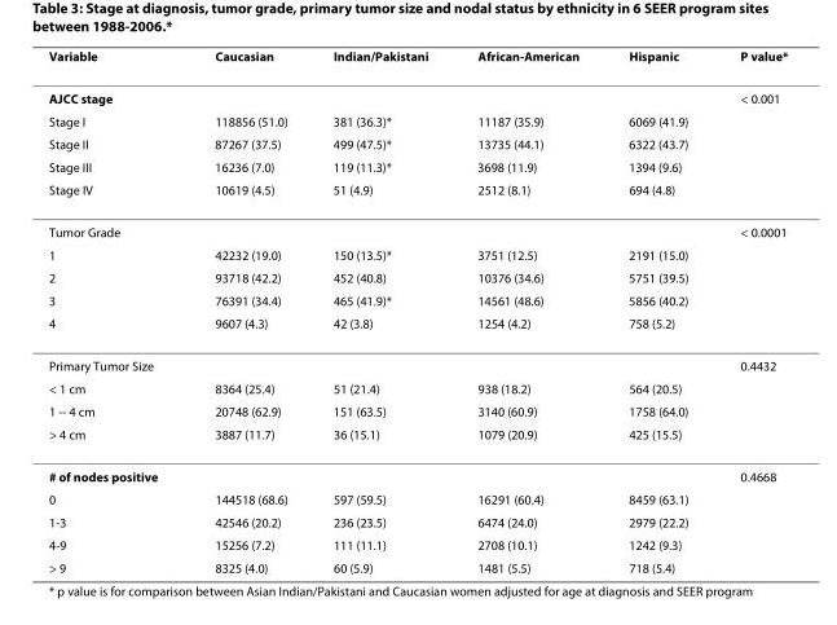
<table><thead><tr><td>Variable</td><td>Caucasian</td><td>Indian/Pakistani</td><td>African-American</td><td>Hispanic</td><td>P value*</td></tr></thead><tbody><tr><td>AJCC stage</td><td></td><td></td><td></td><td></td><td>&lt; 0.001</td></tr><tr><td>Stage I</td><td>118856 (51.0)</td><td>381 (36.3)*</td><td>11187 (35.9)</td><td>6069 (41.9)</td><td></td></tr><tr><td>Stage II</td><td>87267 (37.5)</td><td>499 (47.5)*</td><td>13735 (44.1)</td><td>6322 (43.7)</td><td></td></tr><tr><td>Stage III</td><td>16236 (7.0)</td><td>119 (11.3)*</td><td>3698 (11.9)</td><td>1394 (9.6)</td><td></td></tr><tr><td>Stage IV</td><td>10619 (4.5)</td><td>51 (4.9)</td><td>2512 (8.1)</td><td>694 (4.8)</td><td></td></tr><tr><td>Tumor Grade</td><td></td><td></td><td></td><td></td><td>&lt; 0.0001</td></tr><tr><td>1</td><td>42232 (19.0)</td><td>150 (13.5)*</td><td>3751 (12.5)</td><td>2191 (15.0)</td><td></td></tr><tr><td>2</td><td>93718 (42.2)</td><td>452 (40.8)</td><td>10376 (34.6)</td><td>5751 (39.5)</td><td></td></tr><tr><td>3</td><td>76391 (34.4)</td><td>465 (41.9)*</td><td>14561 (48.6)</td><td>5856 (40.2)</td><td></td></tr><tr><td>4</td><td>9607 (4.3)</td><td>42 (3.8)</td><td>1254 (4.2)</td><td>758 (5.2)</td><td></td></tr><tr><td>Primary Tumor Size</td><td></td><td></td><td></td><td></td><td>0.4432</td></tr><tr><td>&lt; 1 cm</td><td>8364 (25.4)</td><td>51 (21.4)</td><td>938 (18.2)</td><td>564 (20.5)</td><td></td></tr><tr><td>1 -- 4 cm</td><td>20748 (62.9)</td><td>151 (63.5)</td><td>3140 (60.9)</td><td>1758 (64.0)</td><td></td></tr><tr><td>&gt; 4 cm</td><td>3887 (11.7)</td><td>36 (15.1)</td><td>1079 (20.9)</td><td>425 (15.5)</td><td></td></tr><tr><td># of nodes positive</td><td></td><td></td><td></td><td></td><td>0.4668</td></tr><tr><td>0</td><td>144518 (68.6)</td><td>597 (59.5)</td><td>16291 (60.4)</td><td>8459 (63.1)</td><td></td></tr><tr><td>1-3</td><td>42546 (20.2)</td><td>236 (23.5)</td><td>6474 (24.0)</td><td>2979 (22.2)</td><td></td></tr><tr><td>4-9</td><td>15256 (7.2)</td><td>111 (11.1)</td><td>2708 (10.1)</td><td>1242 (9.3)</td><td></td></tr><tr><td>&gt; 9</td><td>8325 (4.0)</td><td>60 (5.9)</td><td>1481 (5.5)</td><td>718 (5.4)</td><td></td></tr></tbody></table>